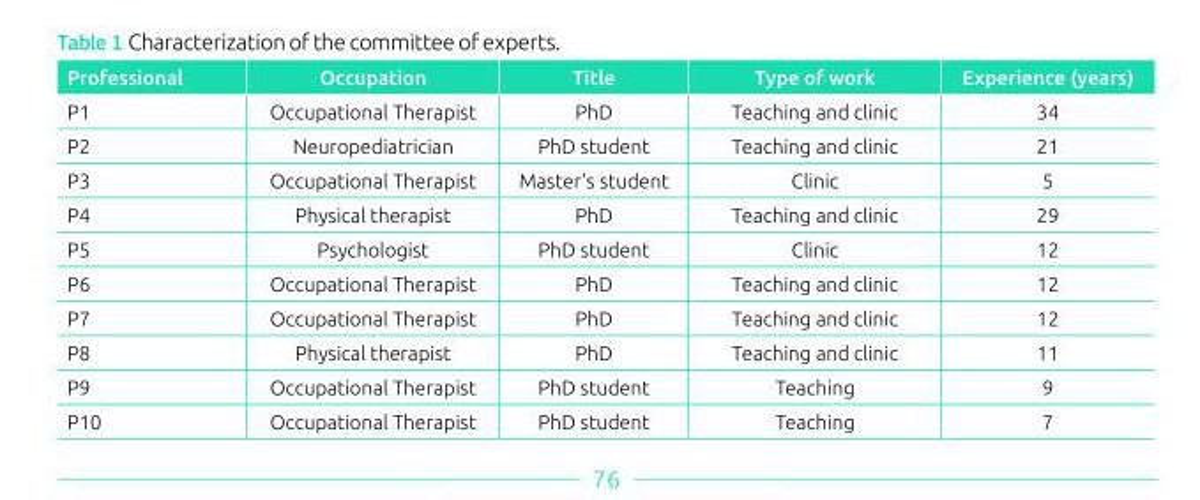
<table><thead><tr><td>Professional</td><td>Occupation</td><td>Title</td><td>Type of work</td><td>Experience (years)</td></tr></thead><tbody><tr><td>P1</td><td>Occupational Therapist</td><td>PhD</td><td>Teaching and clinic</td><td>34</td></tr><tr><td>P2</td><td>Neuropediatrician</td><td>PhD student</td><td>Teaching and clinic</td><td>21</td></tr><tr><td>P3</td><td>Occupational Therapist</td><td>Master’s student</td><td>Clinic</td><td>5</td></tr><tr><td>P4</td><td>Physical therapist</td><td>PhD</td><td>Teaching and clinic</td><td>29</td></tr><tr><td>P5</td><td>Psychologist</td><td>PhD student</td><td>Clinic</td><td>12</td></tr><tr><td>P6</td><td>Occupational Therapist</td><td>PhD</td><td>Teaching and clinic</td><td>12</td></tr><tr><td>P7</td><td>Occupational Therapist</td><td>PhD</td><td>Teaching and clinic</td><td>12</td></tr><tr><td>P8</td><td>Physical therapist</td><td>PhD</td><td>Teaching and clinic</td><td>11</td></tr><tr><td>P9</td><td>Occupational Therapist</td><td>PhD student</td><td>Teaching</td><td>9</td></tr><tr><td>P10</td><td>Occupational Therapist</td><td>PhD student</td><td>Teaching</td><td>7</td></tr></tbody></table>